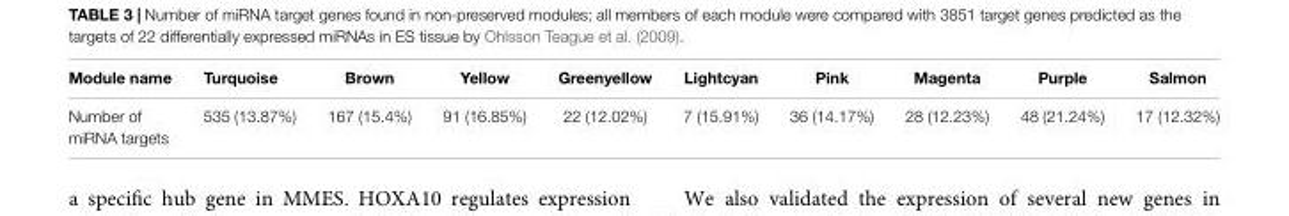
<table><thead><tr><td>Module name</td><td>Turquoise</td><td>Brown</td><td>Yellow</td><td>Greenyellow</td><td>Lightcyan</td><td>Pink</td><td>Magenta</td><td>Purple</td><td>Salmon</td></tr></thead><tbody><tr><td>Number of miRNA targets</td><td>535 (13.87%)</td><td>167 (15.4%)</td><td>91 (16.85%)</td><td>22 (12.02%)</td><td>7 (15.91%)</td><td>36 (14.17%)</td><td>28 (12.23%)</td><td>48 (21.24%)</td><td>17 (12.32%)</td></tr></tbody></table>